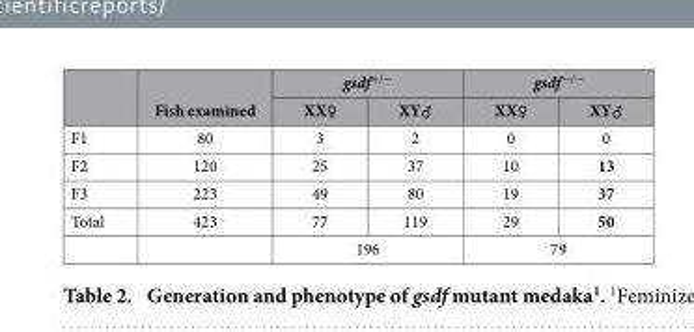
<table><thead><tr><td rowspan="2"></td><td rowspan="2">Fish examined</td><td colspan="2">gsdf<sup>+/−</sup></td><td colspan="2">gsdf<sup>−/−</sup></td></tr><tr><td>XX♀</td><td>XY♂</td><td>XX♀</td><td>XY♂</td></tr></thead><tbody><tr><td>F1</td><td>80</td><td>3</td><td>2</td><td>0</td><td>0</td></tr><tr><td>F2</td><td>120</td><td>25</td><td>37</td><td>10</td><td>13</td></tr><tr><td>F3</td><td>223</td><td>49</td><td>80</td><td>19</td><td>37</td></tr><tr><td rowspan="2">Total</td><td>423</td><td>77</td><td>119</td><td>29</td><td>50</td></tr><tr><td></td><td colspan="2">196</td><td colspan="2">79</td></tr></tbody></table>